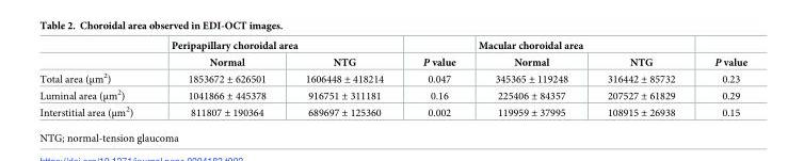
<table><thead><tr><td rowspan="2"></td><td colspan="2">Peripapillary choroidal area</td><td rowspan="2">P value</td><td colspan="2">Macular choroidal area</td><td rowspan="2">P value</td></tr><tr><td>Normal</td><td>NTG</td><td>Normal</td><td>NTG</td></tr></thead><tbody><tr><td>Total area (μm<sup>2</sup>)</td><td>1853672 ± 626501</td><td>1606448 ± 418214</td><td>0.047</td><td>345365 ± 119248</td><td>316442 ± 85732</td><td>0.23</td></tr><tr><td>Luminal area (μm<sup>2</sup>)</td><td>1041866 ± 445378</td><td>916751 ± 311181</td><td>0.16</td><td>225406 ± 84357</td><td>207527 ± 61829</td><td>0.29</td></tr><tr><td>Interstitial area (μm<sup>2</sup>)</td><td>811807 ± 190364</td><td>689697 ± 125360</td><td>0.002</td><td>119959 ± 37995</td><td>108915 ± 26938</td><td>0.15</td></tr></tbody></table>